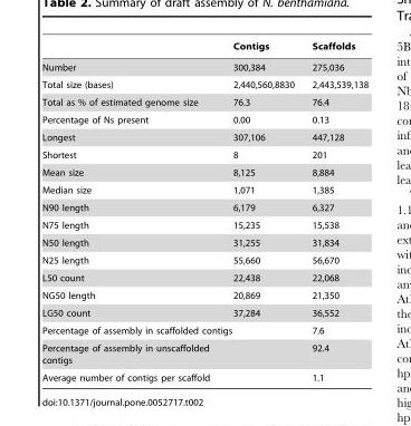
<table><thead><tr><td></td><td>Contigs</td><td>Scaffolds</td></tr></thead><tbody><tr><td>Number</td><td>300,384</td><td>275,036</td></tr><tr><td>Total size (bases)</td><td>2,440,560,8830</td><td>2,443,539,138</td></tr><tr><td>Total as % of estimated genome size</td><td>76.3</td><td>76.4</td></tr><tr><td>Percentage of Ns present</td><td>0.00</td><td>0.13</td></tr><tr><td>Longest</td><td>307,106</td><td>447,128</td></tr><tr><td>Shortest</td><td>8</td><td>201</td></tr><tr><td>Mean size</td><td>8,125</td><td>8,884</td></tr><tr><td>Median size</td><td>1,071</td><td>1,385</td></tr><tr><td>N90 length</td><td>6,179</td><td>6,327</td></tr><tr><td>N75 length</td><td>15,235</td><td>15,538</td></tr><tr><td>N50 length</td><td>31,255</td><td>31,834</td></tr><tr><td>N25 length</td><td>55,660</td><td>56,670</td></tr><tr><td>L50 count</td><td>22,438</td><td>22,068</td></tr><tr><td>NG50 length</td><td>20,869</td><td>21,350</td></tr><tr><td>LG50 count</td><td>37,284</td><td>36,552</td></tr><tr><td>Percentage of assembly in scaffolded contigs</td><td></td><td>7.6</td></tr><tr><td>Percentage of assembly in unscaffolded contigs</td><td></td><td>92.4</td></tr><tr><td>Average number of contigs per scaffold</td><td></td><td>1.1</td></tr></tbody></table>